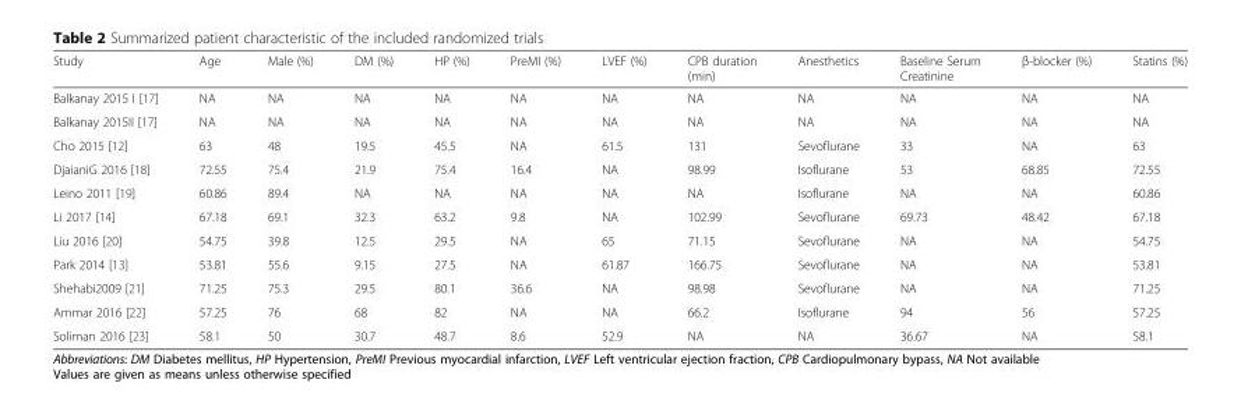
<table><thead><tr><td>Study</td><td>Age</td><td>Male (%)</td><td>DM (%)</td><td>HP (%)</td><td>PreMI (%)</td><td>LVEF (%)</td><td>CPB duration (min)</td><td>Anesthetics</td><td>Baseline Serum Creatinine</td><td>β-blocker (%)</td><td>Statins (%)</td></tr></thead><tbody><tr><td>Balkanay 2015 I [17]</td><td>NA</td><td>NA</td><td>NA</td><td>NA</td><td>NA</td><td>NA</td><td>NA</td><td>NA</td><td>NA</td><td>NA</td><td>NA</td></tr><tr><td>Balkanay 2015II [17]</td><td>NA</td><td>NA</td><td>NA</td><td>NA</td><td>NA</td><td>NA</td><td>NA</td><td>NA</td><td>NA</td><td>NA</td><td>NA</td></tr><tr><td>Cho 2015 [12]</td><td>63</td><td>48</td><td>19.5</td><td>45.5</td><td>NA</td><td>61.5</td><td>131</td><td>Sevoflurane</td><td>33</td><td>NA</td><td>63</td></tr><tr><td>DjaianiG 2016 [18]</td><td>72.55</td><td>75.4</td><td>21.9</td><td>75.4</td><td>16.4</td><td>NA</td><td>98.99</td><td>Isoflurane</td><td>53</td><td>68.85</td><td>72.55</td></tr><tr><td>Leino 2011 [19]</td><td>60.86</td><td>89.4</td><td>NA</td><td>NA</td><td>NA</td><td>NA</td><td>NA</td><td>Isoflurane</td><td>NA</td><td>NA</td><td>60.86</td></tr><tr><td>Li 2017 [14]</td><td>67.18</td><td>69.1</td><td>32.3</td><td>63.2</td><td>9.8</td><td>NA</td><td>102.99</td><td>Sevoflurane</td><td>69.73</td><td>48.42</td><td>67.18</td></tr><tr><td>Liu 2016 [20]</td><td>54.75</td><td>39.8</td><td>12.5</td><td>29.5</td><td>NA</td><td>65</td><td>71.15</td><td>Sevoflurane</td><td>NA</td><td>NA</td><td>54.75</td></tr><tr><td>Park 2014 [13]</td><td>53.81</td><td>55.6</td><td>9.15</td><td>27.5</td><td>NA</td><td>61.87</td><td>166.75</td><td>Sevoflurane</td><td>NA</td><td>NA</td><td>53.81</td></tr><tr><td>Shehabi2009 [21]</td><td>71.25</td><td>75.3</td><td>29.5</td><td>80.1</td><td>36.6</td><td>NA</td><td>98.98</td><td>Sevoflurane</td><td>NA</td><td>NA</td><td>71.25</td></tr><tr><td>Ammar 2016 [22]</td><td>57.25</td><td>76</td><td>68</td><td>82</td><td>NA</td><td>NA</td><td>66.2</td><td>Isoflurane</td><td>94</td><td>56</td><td>57.25</td></tr><tr><td>Soliman 2016 [23]</td><td>58.1</td><td>50</td><td>30.7</td><td>48.7</td><td>8.6</td><td>52.9</td><td>NA</td><td>NA</td><td>36.67</td><td>NA</td><td>58.1</td></tr></tbody></table>